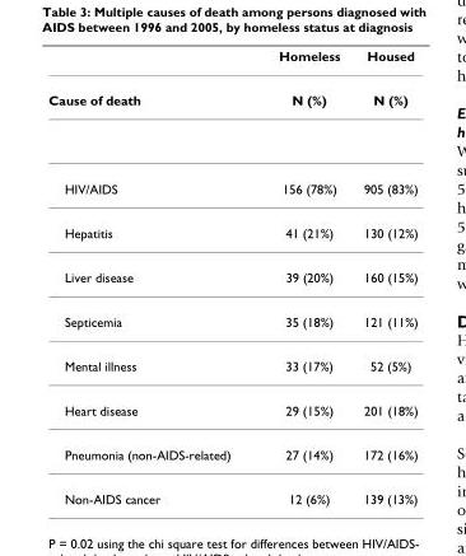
<table><thead><tr><td></td><td>Homeless</td><td>Housed</td></tr></thead><tbody><tr><td>Cause of death</td><td>N (%)</td><td>N (%)</td></tr><tr><td>HIV/AIDS</td><td>156 (78%)</td><td>905 (83%)</td></tr><tr><td>Hepatitis</td><td>41 (21%)</td><td>130 (12%)</td></tr><tr><td>Liver disease</td><td>39 (20%)</td><td>160 (15%)</td></tr><tr><td>Septicemia</td><td>35 (18%)</td><td>121 (11%)</td></tr><tr><td>Mental illness</td><td>33 (17%)</td><td>52 (5%)</td></tr><tr><td>Heart disease</td><td>29 (15%)</td><td>201 (18%)</td></tr><tr><td>Pneumonia (non-AIDS-related)</td><td>27 (14%)</td><td>172 (16%)</td></tr><tr><td>Non-AIDS cancer</td><td>12 (6%)</td><td>139 (13%)</td></tr></tbody></table>